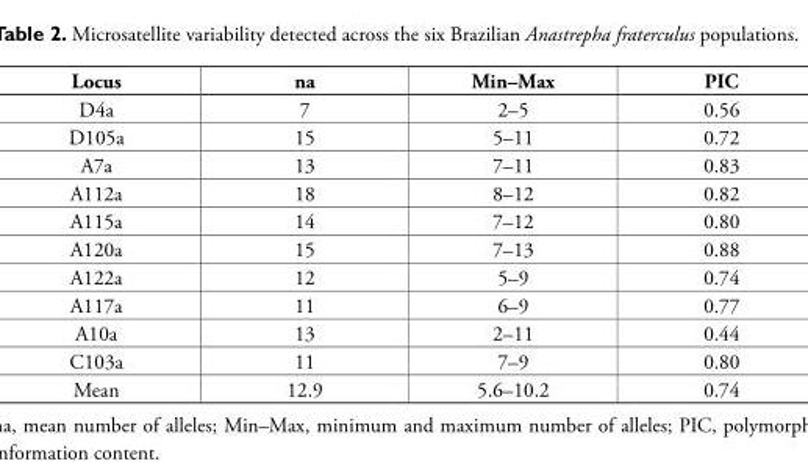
<table><thead><tr><td>Locus</td><td>na</td><td>Min–Max</td><td>PIC</td></tr></thead><tbody><tr><td>D4a</td><td>7</td><td>2–5</td><td>0.56</td></tr><tr><td>D105a</td><td>15</td><td>5–11</td><td>0.72</td></tr><tr><td>A7a</td><td>13</td><td>7–11</td><td>0.83</td></tr><tr><td>A112a</td><td>18</td><td>8–12</td><td>0.82</td></tr><tr><td>A115a</td><td>14</td><td>7–12</td><td>0.80</td></tr><tr><td>A120a</td><td>15</td><td>7–13</td><td>0.88</td></tr><tr><td>A122a</td><td>12</td><td>5–9</td><td>0.74</td></tr><tr><td>A117a</td><td>11</td><td>6–9</td><td>0.77</td></tr><tr><td>A10a</td><td>13</td><td>2–11</td><td>0.44</td></tr><tr><td>C103a</td><td>11</td><td>7–9</td><td>0.80</td></tr><tr><td>Mean</td><td>12.9</td><td>5.6–10.2</td><td>0.74</td></tr></tbody></table>